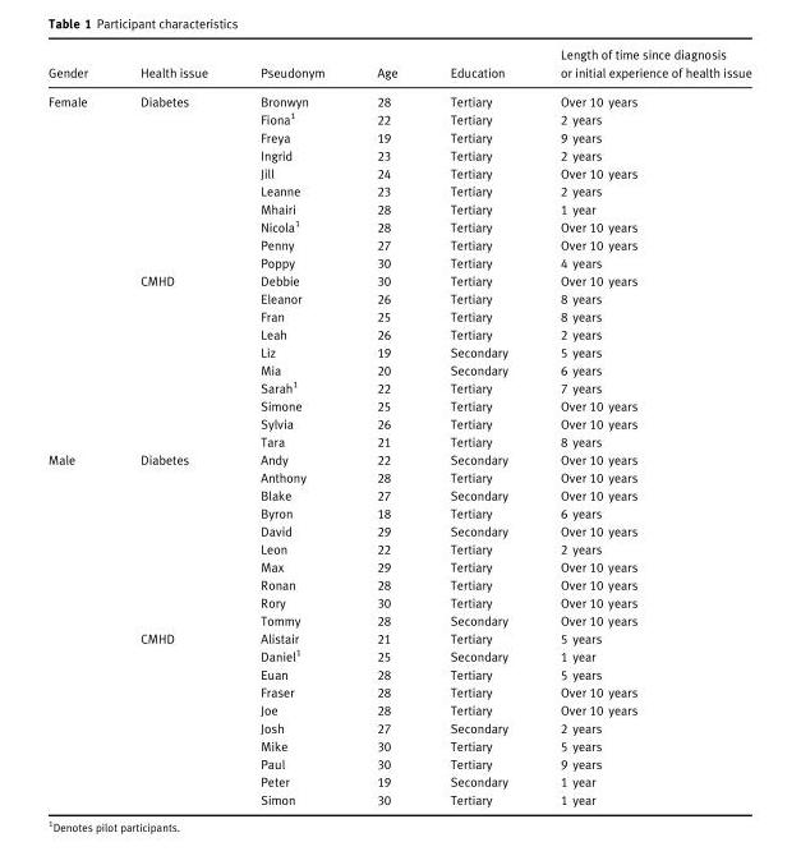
<table><thead><tr><td>Gender</td><td>Health issue</td><td>Pseudonym</td><td>Age</td><td>Education</td><td>Length of time since diagnosis or initial experience of health issue</td></tr></thead><tbody><tr><td rowspan="20">Female</td><td rowspan="10">Diabetes</td><td>Bronwyn</td><td>28</td><td>Tertiary</td><td>Over 10 years</td></tr><tr><td>Fiona1</td><td>22</td><td>Tertiary</td><td>2 years</td></tr><tr><td>Freya</td><td>19</td><td>Tertiary</td><td>9 years</td></tr><tr><td>Ingrid</td><td>23</td><td>Tertiary</td><td>2 years</td></tr><tr><td>Jill</td><td>24</td><td>Tertiary</td><td>Over 10 years</td></tr><tr><td>Leanne</td><td>23</td><td>Tertiary</td><td>2 years</td></tr><tr><td>Mhairi</td><td>28</td><td>Tertiary</td><td>1 year</td></tr><tr><td>Nicola1</td><td>28</td><td>Tertiary</td><td>Over 10 years</td></tr><tr><td>Penny</td><td>27</td><td>Tertiary</td><td>Over 10 years</td></tr><tr><td>Poppy</td><td>30</td><td>Tertiary</td><td>4 years</td></tr><tr><td rowspan="10">CMHD</td><td>Debbie</td><td>30</td><td>Tertiary</td><td>Over 10 years</td></tr><tr><td>Eleanor</td><td>26</td><td>Tertiary</td><td>8 years</td></tr><tr><td>Fran</td><td>25</td><td>Tertiary</td><td>8 years</td></tr><tr><td>Leah</td><td>26</td><td>Tertiary</td><td>2 years</td></tr><tr><td>Liz</td><td>19</td><td>Secondary</td><td>5 years</td></tr><tr><td>Mia</td><td>20</td><td>Secondary</td><td>6 years</td></tr><tr><td>Sarah1</td><td>22</td><td>Tertiary</td><td>7 years</td></tr><tr><td>Simone</td><td>25</td><td>Tertiary</td><td>Over 10 years</td></tr><tr><td>Sylvia</td><td>26</td><td>Tertiary</td><td>Over 10 years</td></tr><tr><td>Tara</td><td>21</td><td>Tertiary</td><td>8 years</td></tr><tr><td rowspan="20">Male</td><td rowspan="10">Diabetes</td><td>Andy</td><td>22</td><td>Secondary</td><td>Over 10 years</td></tr><tr><td>Anthony</td><td>28</td><td>Tertiary</td><td>Over 10 years</td></tr><tr><td>Blake</td><td>27</td><td>Secondary</td><td>Over 10 years</td></tr><tr><td>Byron</td><td>18</td><td>Tertiary</td><td>6 years</td></tr><tr><td>David</td><td>29</td><td>Secondary</td><td>Over 10 years</td></tr><tr><td>Leon</td><td>22</td><td>Tertiary</td><td>2 years</td></tr><tr><td>Max</td><td>29</td><td>Tertiary</td><td>Over 10 years</td></tr><tr><td>Ronan</td><td>28</td><td>Tertiary</td><td>Over 10 years</td></tr><tr><td>Rory</td><td>30</td><td>Tertiary</td><td>Over 10 years</td></tr><tr><td>Tommy</td><td>28</td><td>Secondary</td><td>Over 10 years</td></tr><tr><td rowspan="10">CMHD</td><td>Alistair</td><td>21</td><td>Tertiary</td><td>5 years</td></tr><tr><td>Daniel1</td><td>25</td><td>Secondary</td><td>1 year</td></tr><tr><td>Euan</td><td>28</td><td>Tertiary</td><td>5 years</td></tr><tr><td>Fraser</td><td>28</td><td>Tertiary</td><td>Over 10 years</td></tr><tr><td>Joe</td><td>28</td><td>Tertiary</td><td>Over 10 years</td></tr><tr><td>Josh</td><td>27</td><td>Secondary</td><td>2 years</td></tr><tr><td>Mike</td><td>30</td><td>Tertiary</td><td>5 years</td></tr><tr><td>Paul</td><td>30</td><td>Tertiary</td><td>9 years</td></tr><tr><td>Peter</td><td>19</td><td>Secondary</td><td>1 year</td></tr><tr><td>Simon</td><td>30</td><td>Tertiary</td><td>1 year</td></tr></tbody></table>